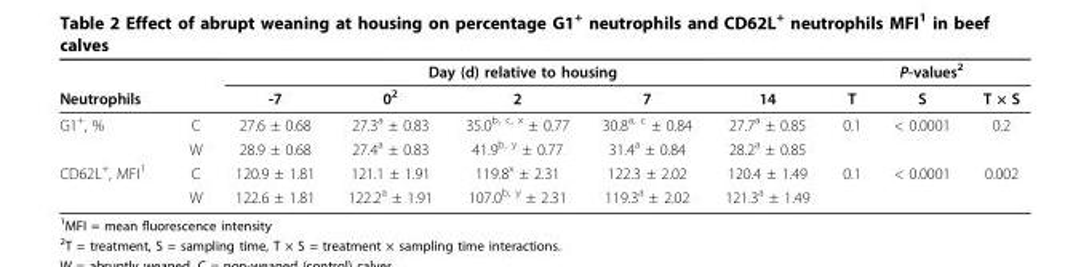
<table><thead><tr><td rowspan="2">Neutrophils</td><td rowspan="2"></td><td colspan="5">Day (d) relative to housing</td><td colspan="3">P-values<sup>2</sup></td></tr><tr><td>-7</td><td>0<sup>2</sup></td><td>2</td><td>7</td><td>14</td><td>T</td><td>S</td><td>T × S</td></tr></thead><tbody><tr><td rowspan="2">G1<sup>+</sup>, %</td><td>C</td><td>27.6 ± 0.68</td><td>27.3<sup>a</sup> ± 0.83</td><td>35.0<sup>b, c, x</sup> ± 0.77</td><td>30.8<sup>a, c</sup> ± 0.84</td><td>27.7<sup>a</sup> ± 0.85</td><td>0.1</td><td>&lt; 0.0001</td><td>0.2</td></tr><tr><td>W</td><td>28.9 ± 0.68</td><td>27.4<sup>a</sup> ± 0.83</td><td>41.9<sup>b, y</sup> ± 0.77</td><td>31.4<sup>a</sup> ± 0.84</td><td>28.2<sup>a</sup> ± 0.85</td><td></td><td></td><td></td></tr><tr><td rowspan="2">CD62L<sup>+</sup>, MFI<sup>1</sup></td><td>C</td><td>120.9 ± 1.81</td><td>121.1 ± 1.91</td><td>119.8<sup>x</sup> ± 2.31</td><td>122.3 ± 2.02</td><td>120.4 ± 1.49</td><td>0.1</td><td>&lt; 0.0001</td><td>0.002</td></tr><tr><td>W</td><td>122.6 ± 1.81</td><td>122.2<sup>a</sup> ± 1.91</td><td>107.0<sup>b, y</sup> ± 2.31</td><td>119.3<sup>a</sup> ± 2.02</td><td>121.3<sup>a</sup> ± 1.49</td><td></td><td></td><td></td></tr></tbody></table>